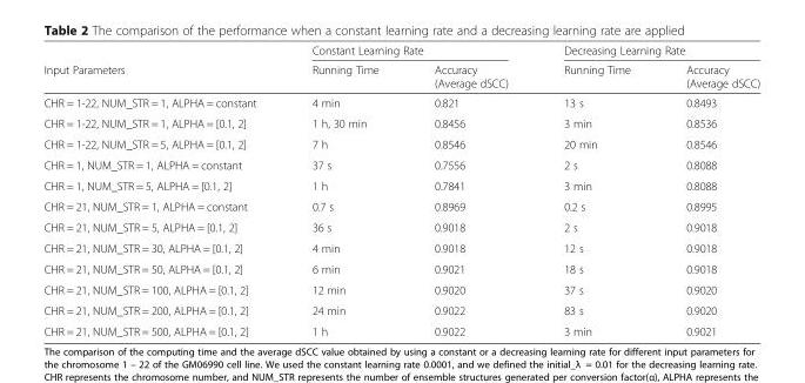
<table><thead><tr><td rowspan="2">Input Parameters</td><td colspan="2">Constant Learning Rate</td><td colspan="2">Decreasing Learning Rate</td></tr><tr><td>Running Time</td><td>Accuracy (Average dSCC)</td><td>Running Time</td><td>Accuracy (Average dSCC)</td></tr></thead><tbody><tr><td>CHR = 1-22, NUM_STR = 1, ALPHA = constant</td><td>4 min</td><td>0.821</td><td>13 s</td><td>0.8493</td></tr><tr><td>CHR = 1-22, NUM_STR = 1, ALPHA = [0.1, 2]</td><td>1 h, 30 min</td><td>0.8456</td><td>3 min</td><td>0.8536</td></tr><tr><td>CHR = 1-22, NUM_STR = 5, ALPHA = [0.1, 2]</td><td>7 h</td><td>0.8546</td><td>20 min</td><td>0.8546</td></tr><tr><td>CHR = 1, NUM_STR = 1, ALPHA = constant</td><td>37 s</td><td>0.7556</td><td>2 s</td><td>0.8088</td></tr><tr><td>CHR = 1, NUM_STR = 5, ALPHA = [0.1, 2]</td><td>1 h</td><td>0.7841</td><td>3 min</td><td>0.8088</td></tr><tr><td>CHR = 21, NUM_STR = 1, ALPHA = constant</td><td>0.7 s</td><td>0.8969</td><td>0.2 s</td><td>0.8995</td></tr><tr><td>CHR = 21, NUM_STR = 5, ALPHA = [0.1, 2]</td><td>36 s</td><td>0.9018</td><td>2 s</td><td>0.9018</td></tr><tr><td>CHR = 21, NUM_STR = 30, ALPHA = [0.1, 2]</td><td>4 min</td><td>0.9018</td><td>12 s</td><td>0.9018</td></tr><tr><td>CHR = 21, NUM_STR = 50, ALPHA = [0.1, 2]</td><td>6 min</td><td>0.9021</td><td>18 s</td><td>0.9018</td></tr><tr><td>CHR = 21, NUM_STR = 100, ALPHA = [0.1, 2]</td><td>12 min</td><td>0.9020</td><td>37 s</td><td>0.9020</td></tr><tr><td>CHR = 21, NUM_STR = 200, ALPHA = [0.1, 2]</td><td>24 min</td><td>0.9022</td><td>83 s</td><td>0.9020</td></tr><tr><td>CHR = 21, NUM_STR = 500, ALPHA = [0.1, 2]</td><td>1 h</td><td>0.9022</td><td>3 min</td><td>0.9021</td></tr></tbody></table>